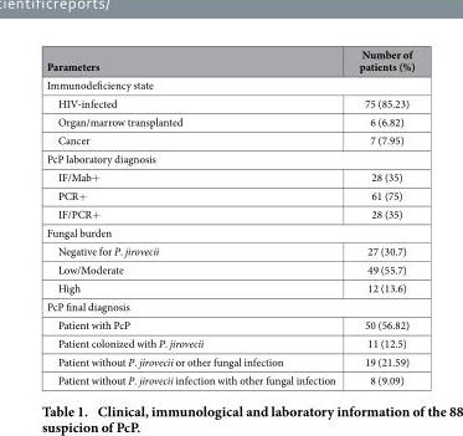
<table><thead><tr><td>Parameters</td><td>Number of patients (%)</td></tr></thead><tbody><tr><td colspan="2">Immunodeficiency state</td></tr><tr><td>HIV-infected</td><td>75 (85.23)</td></tr><tr><td>Organ/marrow transplanted</td><td>6 (6.82)</td></tr><tr><td>Cancer</td><td>7 (7.95)</td></tr><tr><td colspan="2">PcP laboratory diagnosis</td></tr><tr><td>IF/Mab+</td><td>28 (35)</td></tr><tr><td>PCR+</td><td>61 (75)</td></tr><tr><td>IF/PCR+</td><td>28 (35)</td></tr><tr><td colspan="2">Fungal burden</td></tr><tr><td>Negative for P. jirovecii</td><td>27 (30.7)</td></tr><tr><td>Low/Moderate</td><td>49 (55.7)</td></tr><tr><td>High</td><td>12 (13.6)</td></tr><tr><td colspan="2">PcP final diagnosis</td></tr><tr><td>Patient with PcP</td><td>50 (56.82)</td></tr><tr><td>Patient colonized with P. jirovecii</td><td>11 (12.5)</td></tr><tr><td>Patient without P. jirovecii or other fungal infection</td><td>19 (21.59)</td></tr><tr><td>Patient without P. jirovecii infection with other fungal infection</td><td>8 (9.09)</td></tr></tbody></table>